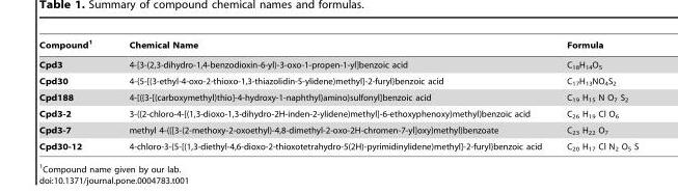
<table><thead><tr><td>Compound<sup>1</sup></td><td>Chemical Name</td><td>Formula</td></tr></thead><tbody><tr><td>Cpd3</td><td>4-[3-(2,3-dihydro-1,4-benzodioxin-6-yl)-3-oxo-1-propen-1-yl]benzoic acid</td><td>C<sub>18</sub>H<sub>14</sub>O<sub>5</sub></td></tr><tr><td>Cpd30</td><td>4-{5-[(3-ethyl-4-oxo-2-thioxo-1,3-thiazolidin-5-ylidene)methyl]-2-furyl}benzoic acid</td><td>C<sub>17</sub>H<sub>13</sub>NO<sub>4</sub>S<sub>2</sub></td></tr><tr><td>Cpd188</td><td>4-[({3-[(carboxymethyl)thio]-4-hydroxy-1-naphthyl}amino)sulfonyl]benzoic acid</td><td>C<sub>19</sub> H<sub>15</sub> N O<sub>7</sub> S<sub>2</sub></td></tr><tr><td>Cpd3-2</td><td>3-({2-chloro-4-[(1,3-dioxo-1,3-dihydro-2H-inden-2-ylidene)methyl]-6-ethoxyphenoxy}methyl)benzoic acid</td><td>C<sub>26</sub> H<sub>19</sub> Cl O<sub>6</sub></td></tr><tr><td>Cpd3-7</td><td>methyl 4-({[3-(2-methoxy-2-oxoethyl)-4,8-dimethyl-2-oxo-2H-chromen-7-yl]oxy}methyl)benzoate</td><td>C<sub>23</sub> H<sub>22</sub> O<sub>7</sub></td></tr><tr><td>Cpd30-12</td><td>4-chloro-3-{5-[(1,3-diethyl-4,6-dioxo-2-thioxotetrahydro-5(2H)-pyrimidinylidene)methyl]-2-furyl}benzoic acid</td><td>C<sub>20</sub> H<sub>17</sub> Cl N<sub>2</sub> O<sub>5</sub> S</td></tr></tbody></table>